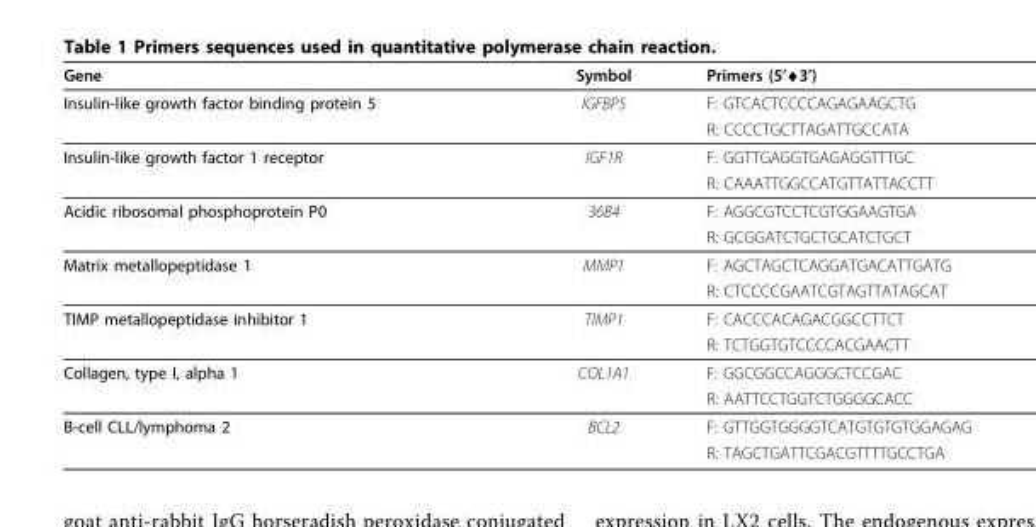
<table><thead><tr><td>Gene</td><td>Symbol</td><td>Primers (5’→3’)</td></tr></thead><tbody><tr><td rowspan="2">Insulin-like growth factor binding protein 5</td><td>IGFBP5</td><td>F: GTCACTCCCCAGAGAAGCTG</td></tr><tr><td></td><td>R: CCCCTGCTTAGATTGCCATA</td></tr><tr><td rowspan="2">Insulin-like growth factor 1 receptor</td><td>IGF1R</td><td>F: GGTTGAGGTGAGAGGTTTGC</td></tr><tr><td></td><td>R: CAAATTGGCCATGTTATTACCTT</td></tr><tr><td rowspan="2">Acidic ribosomal phosphoprotein P0</td><td>36B4</td><td>F: AGGCGTCCTCGTGGAAGTGA</td></tr><tr><td></td><td>R: GCGGATCTGCTGCATCTGCT</td></tr><tr><td rowspan="2">Matrix metallopeptidase 1</td><td>MMP1</td><td>F: AGCTAGCTCAGGATGACATTGATG</td></tr><tr><td></td><td>R: CTCCCCGAATCGTAGTTATAGCAT</td></tr><tr><td rowspan="2">TIMP metallopeptidase inhibitor 1</td><td>TIMP1</td><td>F: CACCCACAGACGGCCTTCT</td></tr><tr><td></td><td>R: TCTGGTGTCCCCACGAACTT</td></tr><tr><td rowspan="2">Collagen, type I, alpha 1</td><td>COL1A1</td><td>F: GGCGGCCAGGGCTCCGAC</td></tr><tr><td></td><td>R: AATTCCTGGTCTGGGGCACC</td></tr><tr><td rowspan="2">B-cell CLL/lymphoma 2</td><td>BCL2</td><td>F: GTTGGTGGGGTCATGTGTGTGGAGAG</td></tr><tr><td></td><td>R: TAGCTGATTCGACGTTTTGCCTGA</td></tr></tbody></table>